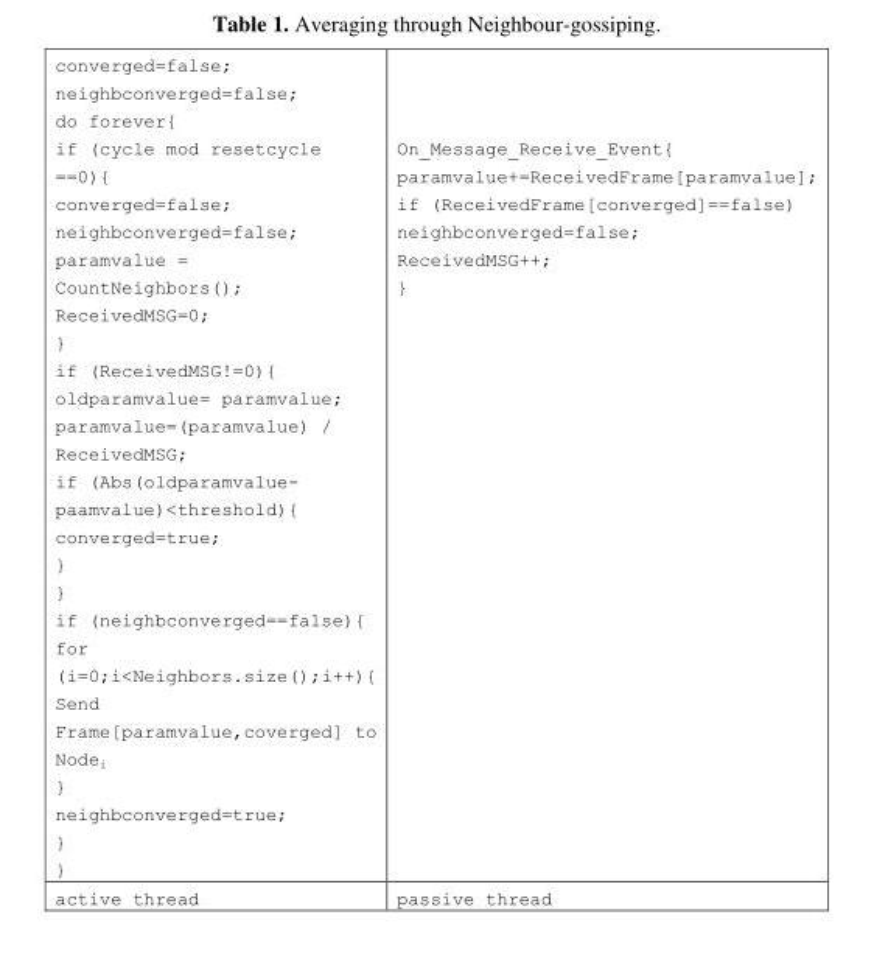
<table><tbody><tr><td>converged=false; neighbconverged=false; do forever{ if (cycle mod resetcycle ==0){ converged=false; neighbconverged=false; paramvalue = CountNeighbors(); ReceivedMSG=0; } if (ReceivedMSG!=0){ oldparamvalue= paramvalue; paramvalue=(paramvalue) / ReceivedMSG; if (Abs(oldparamvalue- paamvalue)&lt;threshold){ converged=true; } } if (neighbconverged==false){ for (i=0;i&lt;Neighbors.size();i++){ Send Frame[paramvalue,coverged] to Node<sub>i</sub> } neighbconverged=true; } }</td><td>On_Message_Receive_Event{ paramvalue+=ReceivedFrame[paramvalue]; if (ReceivedFrame[converged]==false) neighbconverged=false; ReceivedMSG++; }</td></tr><tr><td>active thread</td><td>passive thread</td></tr></tbody></table>